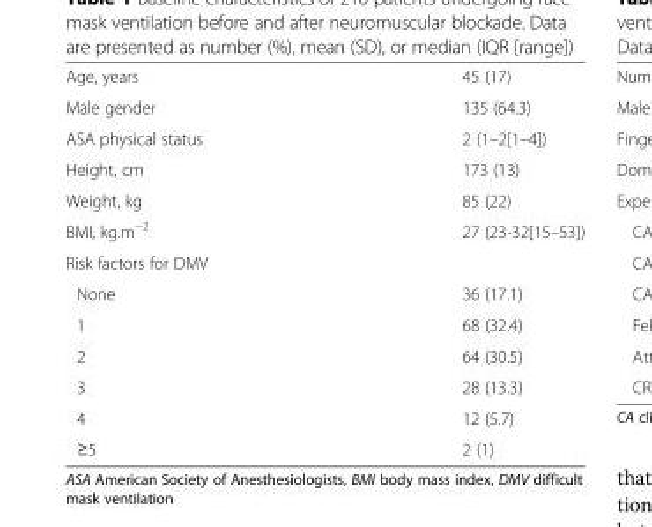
<table><tbody><tr><td>Age, years</td><td>45 (17)</td></tr><tr><td>Male gender</td><td>135 (64.3)</td></tr><tr><td>ASA physical status</td><td>2 (1–2[1–4])</td></tr><tr><td>Height, cm</td><td>173 (13)</td></tr><tr><td>Weight, kg</td><td>85 (22)</td></tr><tr><td>BMI, kg.m<sup>−2</sup></td><td>27 (23-32[15–53])</td></tr><tr><td colspan="2">Risk factors for DMV</td></tr><tr><td>None</td><td>36 (17.1)</td></tr><tr><td>1</td><td>68 (32.4)</td></tr><tr><td>2</td><td>64 (30.5)</td></tr><tr><td>3</td><td>28 (13.3)</td></tr><tr><td>4</td><td>12 (5.7)</td></tr><tr><td>≥5</td><td>2 (1)</td></tr></tbody></table>